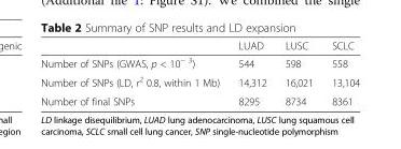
<table><thead><tr><td></td><td>LUAD</td><td>LUSC</td><td>SCLC</td></tr></thead><tbody><tr><td>Number of SNPs (GWAS, p &lt; 10<sup>− 3</sup>)</td><td>544</td><td>598</td><td>558</td></tr><tr><td>Number of SNPs (LD, r<sup>2</sup> 0.8, within 1 Mb)</td><td>14,312</td><td>16,021</td><td>13,104</td></tr><tr><td>Number of final SNPs</td><td>8295</td><td>8734</td><td>8361</td></tr></tbody></table>